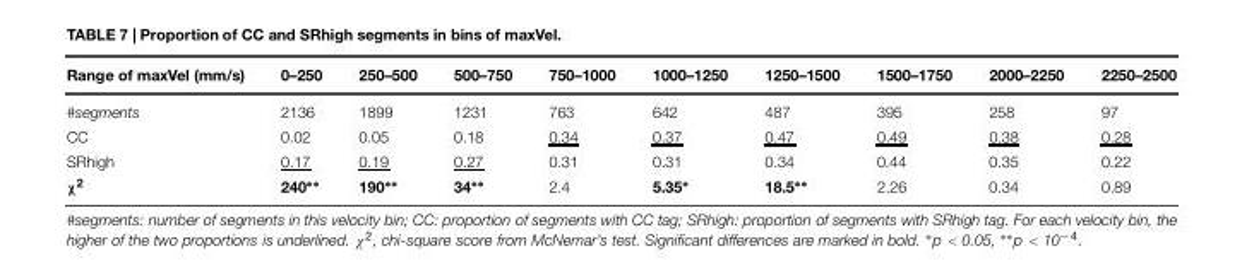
<table><thead><tr><td>Range of maxVel (mm/s)</td><td>0–250</td><td>250–500</td><td>500–750</td><td>750–1000</td><td>1000–1250</td><td>1250–1500</td><td>1500–1750</td><td>2000–2250</td><td>2250–2500</td></tr></thead><tbody><tr><td>#segments</td><td>2136</td><td>1899</td><td>1231</td><td>763</td><td>642</td><td>487</td><td>395</td><td>258</td><td>97</td></tr><tr><td>CC</td><td>0.02</td><td>0.05</td><td>0.18</td><td>0.34</td><td>0.37</td><td>0.47</td><td>0.49</td><td>0.38</td><td>0.28</td></tr><tr><td>SRhigh</td><td>0.17</td><td>0.19</td><td>0.27</td><td>0.31</td><td>0.31</td><td>0.34</td><td>0.44</td><td>0.35</td><td>0.22</td></tr><tr><td>χ<sup>2</sup></td><td>240∗∗</td><td>190∗∗</td><td>34∗∗</td><td>2.4</td><td>5.35∗</td><td>18.5∗∗</td><td>2.26</td><td>0.34</td><td>0.89</td></tr></tbody></table>